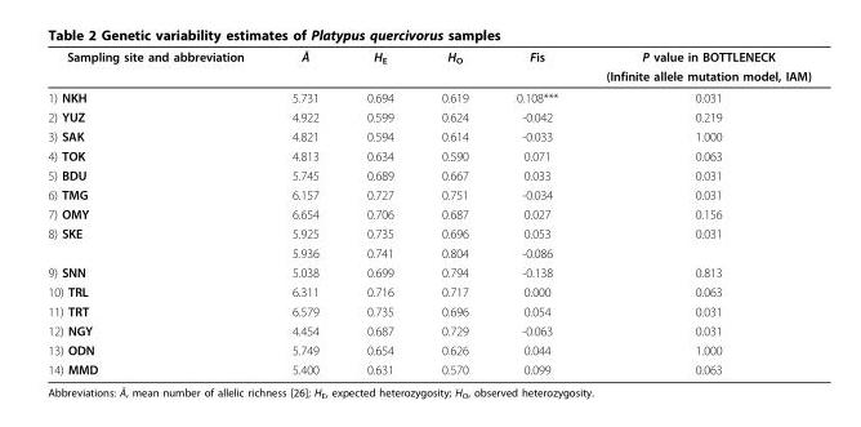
<table><thead><tr><td rowspan="2">Sampling site and abbreviation</td><td rowspan="2">Ā</td><td rowspan="2">H<sub>E</sub></td><td rowspan="2">H<sub>O</sub></td><td rowspan="2">Fis</td><td rowspan="2">P value in BOTTLENECK (Infinite allele mutation model, IAM)</td></tr><tr></tr></thead><tbody><tr><td>1) NKH</td><td>5.731</td><td>0.694</td><td>0.619</td><td>0.108***</td><td>0.031</td></tr><tr><td>2) YUZ</td><td>4.922</td><td>0.599</td><td>0.624</td><td>-0.042</td><td>0.219</td></tr><tr><td>3) SAK</td><td>4.821</td><td>0.594</td><td>0.614</td><td>-0.033</td><td>1.000</td></tr><tr><td>4) TOK</td><td>4.813</td><td>0.634</td><td>0.590</td><td>0.071</td><td>0.063</td></tr><tr><td>5) BDU</td><td>5.745</td><td>0.689</td><td>0.667</td><td>0.033</td><td>0.031</td></tr><tr><td>6) TMG</td><td>6.157</td><td>0.727</td><td>0.751</td><td>-0.034</td><td>0.031</td></tr><tr><td>7) OMY</td><td>6.654</td><td>0.706</td><td>0.687</td><td>0.027</td><td>0.156</td></tr><tr><td rowspan="2">8) SKE</td><td>5.925</td><td>0.735</td><td>0.696</td><td>0.053</td><td>0.031</td></tr><tr><td>5.936</td><td>0.741</td><td>0.804</td><td>-0.086</td><td></td></tr><tr><td>9) SNN</td><td>5.038</td><td>0.699</td><td>0.794</td><td>-0.138</td><td>0.813</td></tr><tr><td>10) TRL</td><td>6.311</td><td>0.716</td><td>0.717</td><td>0.000</td><td>0.063</td></tr><tr><td>11) TRT</td><td>6.579</td><td>0.735</td><td>0.696</td><td>0.054</td><td>0.031</td></tr><tr><td>12) NGY</td><td>4.454</td><td>0.687</td><td>0.729</td><td>-0.063</td><td>0.031</td></tr><tr><td>13) ODN</td><td>5.749</td><td>0.654</td><td>0.626</td><td>0.044</td><td>1.000</td></tr><tr><td>14) MMD</td><td>5.400</td><td>0.631</td><td>0.570</td><td>0.099</td><td>0.063</td></tr></tbody></table>